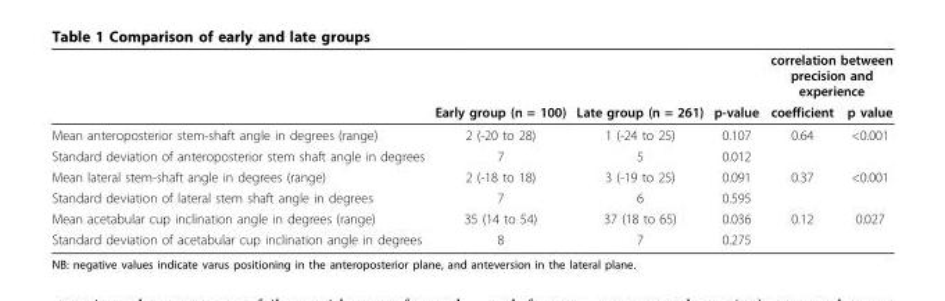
<table><thead><tr><td rowspan="2"></td><td rowspan="2">Early group (n = 100)</td><td rowspan="2">Late group (n = 261)</td><td rowspan="2">p-value</td><td colspan="2">correlation between precision and experience</td></tr><tr><td>coefficient</td><td>p value</td></tr></thead><tbody><tr><td>Mean anteroposterior stem-shaft angle in degrees (range)</td><td>2 (-20 to 28)</td><td>1 (-24 to 25)</td><td>0.107</td><td>0.64</td><td>&lt;0.001</td></tr><tr><td>Standard deviation of anteroposterior stem shaft angle in degrees</td><td>7</td><td>5</td><td>0.012</td><td></td><td></td></tr><tr><td>Mean lateral stem-shaft angle in degrees (range)</td><td>2 (-18 to 18)</td><td>3 (-19 to 25)</td><td>0.091</td><td>0.37</td><td>&lt;0.001</td></tr><tr><td>Standard deviation of lateral stem shaft angle in degrees</td><td>7</td><td>6</td><td>0.595</td><td></td><td></td></tr><tr><td>Mean acetabular cup inclination angle in degrees (range)</td><td>35 (14 to 54)</td><td>37 (18 to 65)</td><td>0.036</td><td>0.12</td><td>0.027</td></tr><tr><td>Standard deviation of acetabular cup inclination angle in degrees</td><td>8</td><td>7</td><td>0.275</td><td></td><td></td></tr></tbody></table>